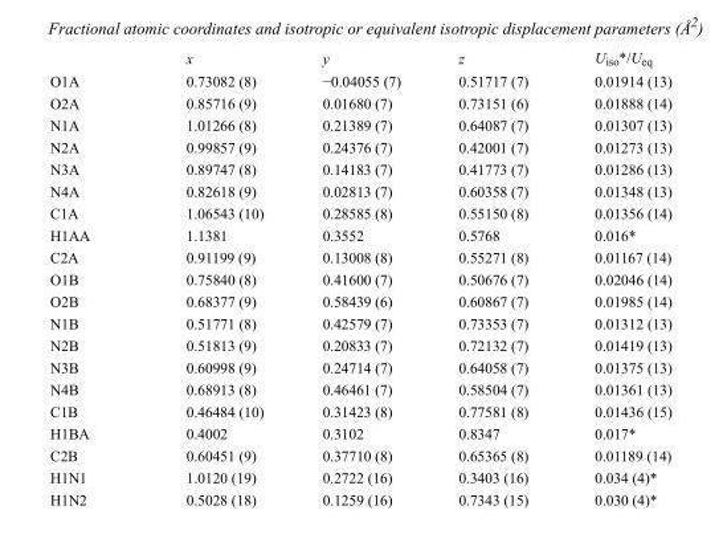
<table><thead><tr><td></td><td>x</td><td>y</td><td>z</td><td>U<sub>iso</sub>*/U<sub>eq</sub></td></tr></thead><tbody><tr><td>O1A</td><td>0.73082 (8)</td><td>−0.04055 (7)</td><td>0.51717 (7)</td><td>0.01914 (13)</td></tr><tr><td>O2A</td><td>0.85716 (9)</td><td>0.01680 (7)</td><td>0.73151 (6)</td><td>0.01888 (14)</td></tr><tr><td>N1A</td><td>1.01266 (8)</td><td>0.21389 (7)</td><td>0.64087 (7)</td><td>0.01307 (13)</td></tr><tr><td>N2A</td><td>0.99857 (9)</td><td>0.24376 (7)</td><td>0.42001 (7)</td><td>0.01273 (13)</td></tr><tr><td>N3A</td><td>0.89747 (8)</td><td>0.14183 (7)</td><td>0.41773 (7)</td><td>0.01286 (13)</td></tr><tr><td>N4A</td><td>0.82618 (9)</td><td>0.02813 (7)</td><td>0.60358 (7)</td><td>0.01348 (13)</td></tr><tr><td>C1A</td><td>1.06543 (10)</td><td>0.28585 (8)</td><td>0.55150 (8)</td><td>0.01356 (14)</td></tr><tr><td>H1AA</td><td>1.1381</td><td>0.3552</td><td>0.5768</td><td>0.016*</td></tr><tr><td>C2A</td><td>0.91199 (9)</td><td>0.13008 (8)</td><td>0.55271 (8)</td><td>0.01167 (14)</td></tr><tr><td>O1B</td><td>0.75840 (8)</td><td>0.41600 (7)</td><td>0.50676 (7)</td><td>0.02046 (14)</td></tr><tr><td>O2B</td><td>0.68377 (9)</td><td>0.58439 (6)</td><td>0.60867 (7)</td><td>0.01985 (14)</td></tr><tr><td>N1B</td><td>0.51771 (8)</td><td>0.42579 (7)</td><td>0.73353 (7)</td><td>0.01312 (13)</td></tr><tr><td>N2B</td><td>0.51813 (9)</td><td>0.20833 (7)</td><td>0.72132 (7)</td><td>0.01419 (13)</td></tr><tr><td>N3B</td><td>0.60998 (9)</td><td>0.24714 (7)</td><td>0.64058 (7)</td><td>0.01375 (13)</td></tr><tr><td>N4B</td><td>0.68913 (8)</td><td>0.46461 (7)</td><td>0.58504 (7)</td><td>0.01361 (13)</td></tr><tr><td>C1B</td><td>0.46484 (10)</td><td>0.31423 (8)</td><td>0.77581 (8)</td><td>0.01436 (15)</td></tr><tr><td>H1BA</td><td>0.4002</td><td>0.3102</td><td>0.8347</td><td>0.017*</td></tr><tr><td>C2B</td><td>0.60451 (9)</td><td>0.37710 (8)</td><td>0.65365 (8)</td><td>0.01189 (14)</td></tr><tr><td>H1N1</td><td>1.0120 (19)</td><td>0.2722 (16)</td><td>0.3403 (16)</td><td>0.034 (4)*</td></tr><tr><td>H1N2</td><td>0.5028 (18)</td><td>0.1259 (16)</td><td>0.7343 (15)</td><td>0.030 (4)*</td></tr></tbody></table>